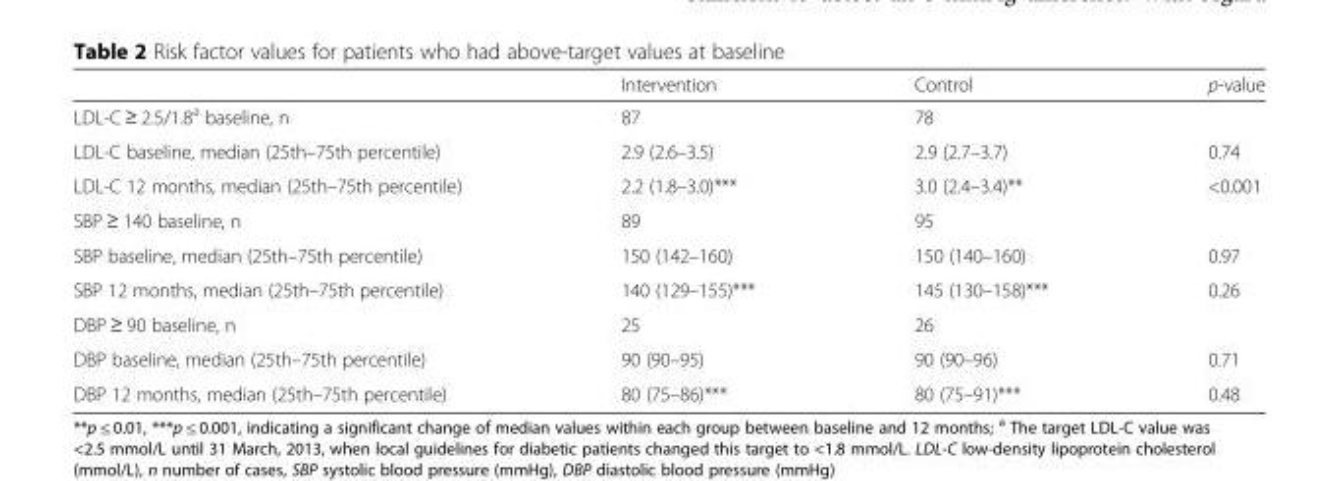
<table><thead><tr><td></td><td>Intervention</td><td>Control</td><td>p-value</td></tr></thead><tbody><tr><td>LDL-C ≥ 2.5/1.8<sup>a</sup> baseline, n</td><td>87</td><td>78</td><td></td></tr><tr><td>LDL-C baseline, median (25th–75th percentile)</td><td>2.9 (2.6–3.5)</td><td>2.9 (2.7–3.7)</td><td>0.74</td></tr><tr><td>LDL-C 12 months, median (25th–75th percentile)</td><td>2.2 (1.8–3.0)***</td><td>3.0 (2.4–3.4)**</td><td>&lt;0.001</td></tr><tr><td>SBP ≥ 140 baseline, n</td><td>89</td><td>95</td><td></td></tr><tr><td>SBP baseline, median (25th–75th percentile)</td><td>150 (142–160)</td><td>150 (140–160)</td><td>0.97</td></tr><tr><td>SBP 12 months, median (25th–75th percentile)</td><td>140 (129–155)***</td><td>145 (130–158)***</td><td>0.26</td></tr><tr><td>DBP ≥ 90 baseline, n</td><td>25</td><td>26</td><td></td></tr><tr><td>DBP baseline, median (25th–75th percentile)</td><td>90 (90–95)</td><td>90 (90–96)</td><td>0.71</td></tr><tr><td>DBP 12 months, median (25th–75th percentile)</td><td>80 (75–86)***</td><td>80 (75–91)***</td><td>0.48</td></tr></tbody></table>